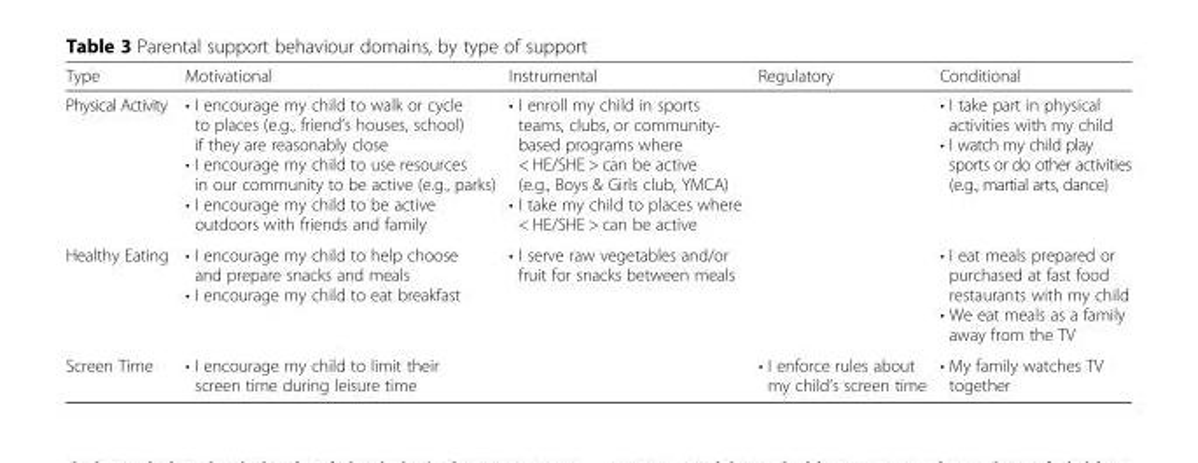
<table><thead><tr><td>Type</td><td>Motivational</td><td>Instrumental</td><td>Regulatory</td><td>Conditional</td></tr></thead><tbody><tr><td>Physical Activity</td><td>• I encourage my child to walk or cycle to places (e.g., friend’s houses, school) if they are reasonably close • I encourage my child to use resources in our community to be active (e.g., parks) • I encourage my child to be active outdoors with friends and family</td><td>• I enroll my child in sports teams, clubs, or community- based programs where &lt; HE/SHE &gt; can be active (e.g., Boys &amp; Girls club, YMCA) • I take my child to places where &lt; HE/SHE &gt; can be active</td><td></td><td>• I take part in physical activities with my child • I watch my child play sports or do other activities (e.g., martial arts, dance)</td></tr><tr><td>Healthy Eating</td><td>• I encourage my child to help choose and prepare snacks and meals • I encourage my child to eat breakfast</td><td>• I serve raw vegetables and/or fruit for snacks between meals</td><td></td><td>• I eat meals prepared or purchased at fast food restaurants with my child • We eat meals as a family away from the TV</td></tr><tr><td>Screen Time</td><td>• I encourage my child to limit their screen time during leisure time</td><td></td><td>• I enforce rules about my child’s screen time</td><td>• My family watches TV together</td></tr></tbody></table>